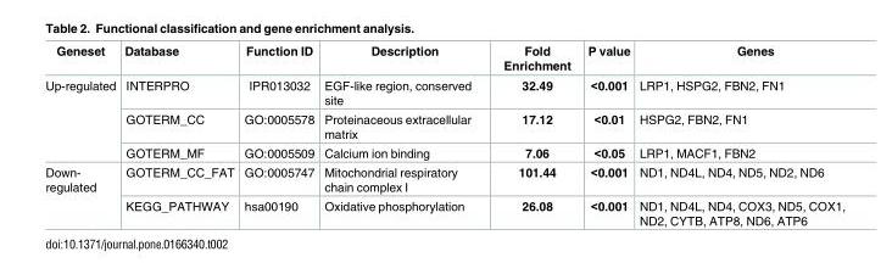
<table><thead><tr><td>Geneset</td><td>Database</td><td>Function ID</td><td>Description</td><td>Fold Enrichment</td><td>P value</td><td>Genes</td></tr></thead><tbody><tr><td rowspan="3">Up-regulated</td><td>INTERPRO</td><td>IPR013032</td><td>EGF-like region, conserved site</td><td>32.49</td><td>&lt;0.001</td><td>LRP1, HSPG2, FBN2, FN1</td></tr><tr><td>GOTERM_CC</td><td>GO:0005578</td><td>Proteinaceous extracellular matrix</td><td>17.12</td><td>&lt;0.01</td><td>HSPG2, FBN2, FN1</td></tr><tr><td>GOTERM_MF</td><td>GO:0005509</td><td>Calcium ion binding</td><td>7.06</td><td>&lt;0.05</td><td>LRP1, MACF1, FBN2</td></tr><tr><td rowspan="2">Down- regulated</td><td>GOTERM_CC_FAT</td><td>GO:0005747</td><td>Mitochondrial respiratory chain complex I</td><td>101.44</td><td>&lt;0.001</td><td>ND1, ND4L, ND4, ND5, ND2, ND6</td></tr><tr><td>KEGG_PATHWAY</td><td>hsa00190</td><td>Oxidative phosphorylation</td><td>26.08</td><td>&lt;0.001</td><td>ND1, ND4L, ND4, COX3, ND5, COX1, ND2, CYTB, ATP8, ND6, ATP6</td></tr></tbody></table>